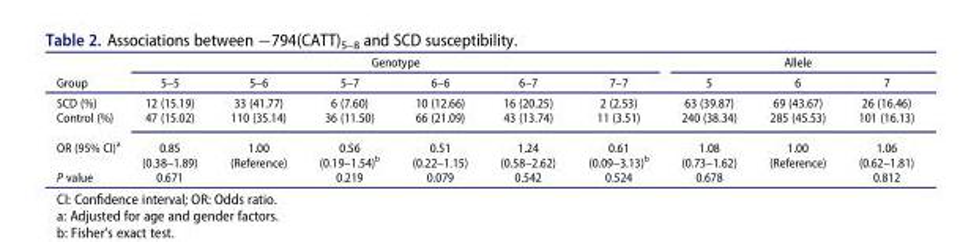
<table><thead><tr><td rowspan="2">Group</td><td colspan="6">Genotype</td><td colspan="3">Allele</td></tr><tr><td>5–5</td><td>5–6</td><td>5–7</td><td>6–6</td><td>6–7</td><td>7–7</td><td>5</td><td>6</td><td>7</td></tr></thead><tbody><tr><td>SCD (%)</td><td>12 (15.19)</td><td>33 (41.77)</td><td>6 (7.60)</td><td>10 (12.66)</td><td>16 (20.25)</td><td>2 (2.53)</td><td>63 (39.87)</td><td>69 (43.67)</td><td>26 (16.46)</td></tr><tr><td>Control (%)</td><td>47 (15.02)</td><td>110 (35.14)</td><td>36 (11.50)</td><td>66 (21.09)</td><td>43 (13.74)</td><td>11 (3.51)</td><td>240 (38.34)</td><td>285 (45.53)</td><td>101 (16.13)</td></tr><tr><td>OR (95% CI)<sup>a</sup></td><td>0.85 (0.38–1.89)</td><td>1.00 (Reference)</td><td>0.56 (0.19–1.54)<sup>b</sup></td><td>0.51 (0.22–1.15)</td><td>1.24 (0.58–2.62)</td><td>0.61 (0.09–3.13)<sup>b</sup></td><td>1.08 (0.73–1.62)</td><td>1.00 (Reference)</td><td>1.06 (0.62–1.81)</td></tr><tr><td>P value</td><td>0.671</td><td></td><td>0.219</td><td>0.079</td><td>0.542</td><td>0.524</td><td>0.678</td><td></td><td>0.812</td></tr></tbody></table>